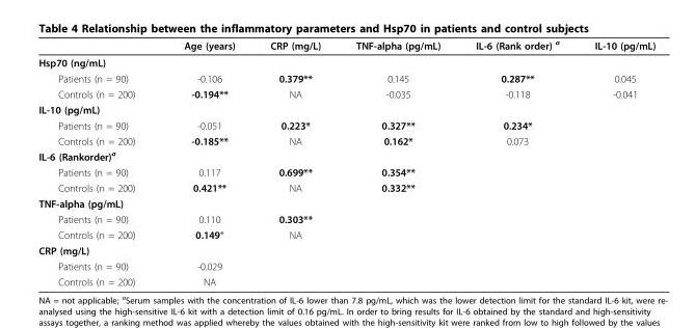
<table><thead><tr><td></td><td>Age (years)</td><td>CRP (mg/L)</td><td>TNF-alpha (pg/mL)</td><td>IL-6 (Rank order) <sup>a</sup></td><td>IL-10 (pg/mL)</td></tr></thead><tbody><tr><td colspan="6">Hsp70 (ng/mL)</td></tr><tr><td>Patients (n = 90)</td><td>-0.106</td><td>0.379**</td><td>0.145</td><td>0.287**</td><td>0.045</td></tr><tr><td>Controls (n = 200)</td><td>-0.194**</td><td>NA</td><td>-0.035</td><td>-0.118</td><td>-0.041</td></tr><tr><td colspan="6">IL-10 (pg/mL)</td></tr><tr><td>Patients (n = 90)</td><td>-0.051</td><td>0.223*</td><td>0.327**</td><td>0.234*</td><td></td></tr><tr><td>Controls (n = 200)</td><td>-0.185**</td><td>NA</td><td>0.162*</td><td>0.073</td><td></td></tr><tr><td colspan="6">IL-6 (Rankorder)<sup>a</sup></td></tr><tr><td>Patients (n = 90)</td><td>0.117</td><td>0.699**</td><td>0.354**</td><td></td><td></td></tr><tr><td>Controls (n = 200)</td><td>0.421**</td><td>NA</td><td>0.332**</td><td></td><td></td></tr><tr><td colspan="6">TNF-alpha (pg/mL)</td></tr><tr><td>Patients (n = 90)</td><td>0.110</td><td>0.303**</td><td></td><td></td><td></td></tr><tr><td>Controls (n = 200)</td><td>0.149*</td><td>NA</td><td></td><td></td><td></td></tr><tr><td colspan="6">CRP (mg/L)</td></tr><tr><td>Patients (n = 90)</td><td>-0.029</td><td></td><td></td><td></td><td></td></tr><tr><td>Controls (n = 200)</td><td>NA</td><td></td><td></td><td></td><td></td></tr></tbody></table>